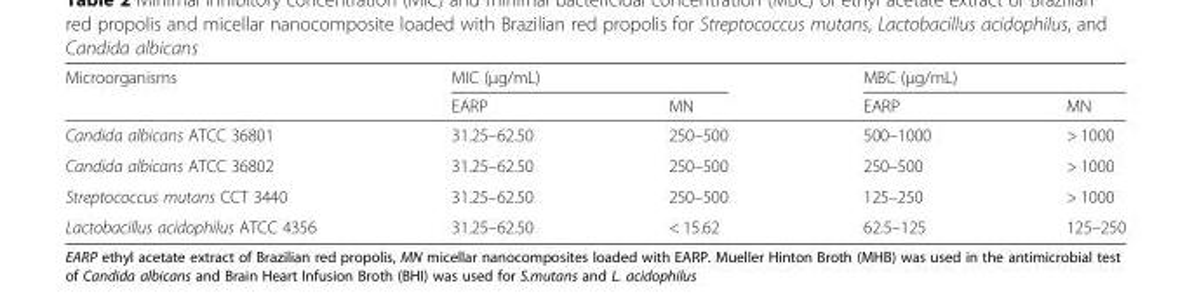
<table><thead><tr><td rowspan="2">Microorganisms</td><td colspan="2">MIC (μg/mL)</td><td colspan="2">MBC (μg/mL)</td></tr><tr><td>EARP</td><td>MN</td><td>EARP</td><td>MN</td></tr></thead><tbody><tr><td>Candida albicans ATCC 36801</td><td>31.25–62.50</td><td>250–500</td><td>500–1000</td><td>&gt; 1000</td></tr><tr><td>Candida albicans ATCC 36802</td><td>31.25–62.50</td><td>250–500</td><td>250–500</td><td>&gt; 1000</td></tr><tr><td>Streptococcus mutans CCT 3440</td><td>31.25–62.50</td><td>250–500</td><td>125–250</td><td>&gt; 1000</td></tr><tr><td>Lactobacillus acidophilus ATCC 4356</td><td>31.25–62.50</td><td>&lt; 15.62</td><td>62.5–125</td><td>125–250</td></tr></tbody></table>